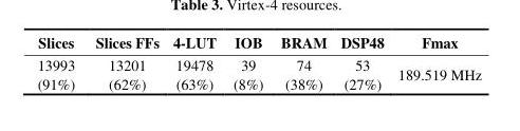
<table><thead><tr><td>Slices</td><td>Slices FFs</td><td>4-LUT</td><td>IOB</td><td>BRAM</td><td>DSP48</td><td>Fmax</td></tr></thead><tbody><tr><td>13993 (91%)</td><td>13201 (62%)</td><td>19478 (63%)</td><td>39 (8%)</td><td>74 (38%)</td><td>53 (27%)</td><td>189.519 MHz</td></tr></tbody></table>